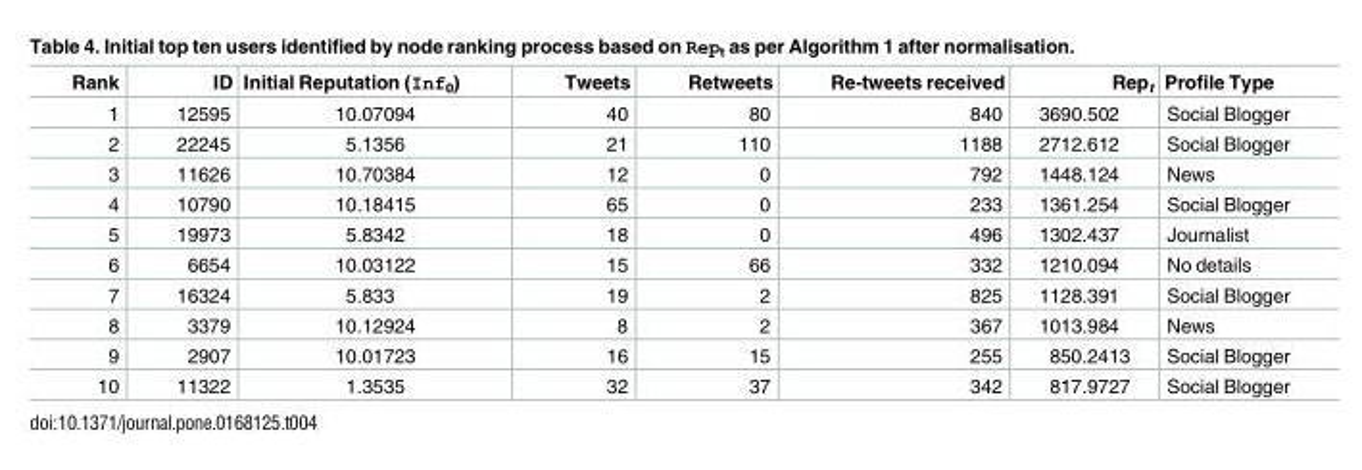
<table><thead><tr><td>Rank</td><td>ID</td><td>Initial Reputation (Inf<sub>0</sub>)</td><td>Tweets</td><td>Retweets</td><td>Re-tweets received</td><td>Rep<sub>t</sub></td><td>Profile Type</td></tr></thead><tbody><tr><td>1</td><td>12595</td><td>10.07094</td><td>40</td><td>80</td><td>840</td><td>3690.502</td><td>Social Blogger</td></tr><tr><td>2</td><td>22245</td><td>5.1356</td><td>21</td><td>110</td><td>1188</td><td>2712.612</td><td>Social Blogger</td></tr><tr><td>3</td><td>11626</td><td>10.70384</td><td>12</td><td>0</td><td>792</td><td>1448.124</td><td>News</td></tr><tr><td>4</td><td>10790</td><td>10.18415</td><td>65</td><td>0</td><td>233</td><td>1361.254</td><td>Social Blogger</td></tr><tr><td>5</td><td>19973</td><td>5.8342</td><td>18</td><td>0</td><td>496</td><td>1302.437</td><td>Journalist</td></tr><tr><td>6</td><td>6654</td><td>10.03122</td><td>15</td><td>66</td><td>332</td><td>1210.094</td><td>No details</td></tr><tr><td>7</td><td>16324</td><td>5.833</td><td>19</td><td>2</td><td>825</td><td>1128.391</td><td>Social Blogger</td></tr><tr><td>8</td><td>3379</td><td>10.12924</td><td>8</td><td>2</td><td>367</td><td>1013.984</td><td>News</td></tr><tr><td>9</td><td>2907</td><td>10.01723</td><td>16</td><td>15</td><td>255</td><td>850.2413</td><td>Social Blogger</td></tr><tr><td>10</td><td>11322</td><td>1.3535</td><td>32</td><td>37</td><td>342</td><td>817.9727</td><td>Social Blogger</td></tr></tbody></table>